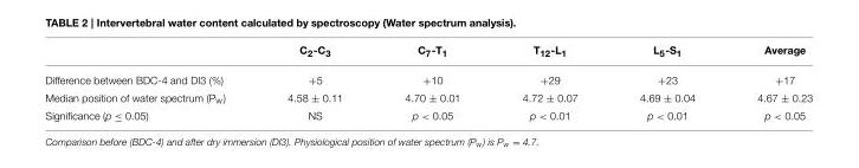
<table><thead><tr><td></td><td>C<sub>2</sub>-C<sub>3</sub></td><td>C<sub>7</sub>-T<sub>1</sub></td><td>T<sub>12</sub>-L<sub>1</sub></td><td>L<sub>5</sub>-S<sub>1</sub></td><td>Average</td></tr></thead><tbody><tr><td>Difference between BDC-4 and DI3 (%)</td><td>+5</td><td>+10</td><td>+29</td><td>+23</td><td>+17</td></tr><tr><td>Median position of water spectrum (P<sub>w</sub>)</td><td>4.58 ± 0.11</td><td>4.70 ± 0.01</td><td>4.72 ± 0.07</td><td>4.69 ± 0.04</td><td>4.67 ± 0.23</td></tr><tr><td>Significance (p ≤ 0.05)</td><td>NS</td><td>p &lt; 0.05</td><td>p &lt; 0.01</td><td>p &lt; 0.01</td><td>p &lt; 0.05</td></tr></tbody></table>